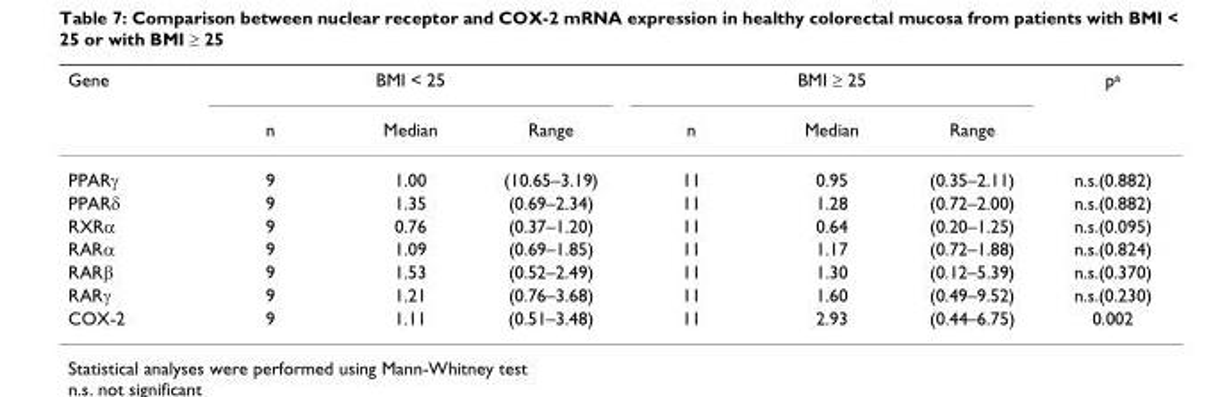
<table><thead><tr><td rowspan="2">Gene</td><td colspan="3">BMI &lt; 25</td><td colspan="3">BMI ≥ 25</td><td rowspan="2">p<sup>a</sup></td></tr><tr><td>n</td><td>Median</td><td>Range</td><td>n</td><td>Median</td><td>Range</td></tr></thead><tbody><tr><td>PPARγ</td><td>9</td><td>1.00</td><td>(10.65–3.19)</td><td>11</td><td>0.95</td><td>(0.35–2.11)</td><td>n.s.(0.882)</td></tr><tr><td>PPARδ</td><td>9</td><td>1.35</td><td>(0.69–2.34)</td><td>11</td><td>1.28</td><td>(0.72–2.00)</td><td>n.s.(0.882)</td></tr><tr><td>RXRα</td><td>9</td><td>0.76</td><td>(0.37–1.20)</td><td>11</td><td>0.64</td><td>(0.20–1.25)</td><td>n.s.(0.095)</td></tr><tr><td>RARα</td><td>9</td><td>1.09</td><td>(0.69–1.85)</td><td>11</td><td>1.17</td><td>(0.72–1.88)</td><td>n.s.(0.824)</td></tr><tr><td>RARβ</td><td>9</td><td>1.53</td><td>(0.52–2.49)</td><td>11</td><td>1.30</td><td>(0.12–5.39)</td><td>n.s.(0.370)</td></tr><tr><td>RARγ</td><td>9</td><td>1.21</td><td>(0.76–3.68)</td><td>11</td><td>1.60</td><td>(0.49–9.52)</td><td>n.s.(0.230)</td></tr><tr><td>COX-2</td><td>9</td><td>1.11</td><td>(0.51–3.48)</td><td>11</td><td>2.93</td><td>(0.44–6.75)</td><td>0.002</td></tr></tbody></table>